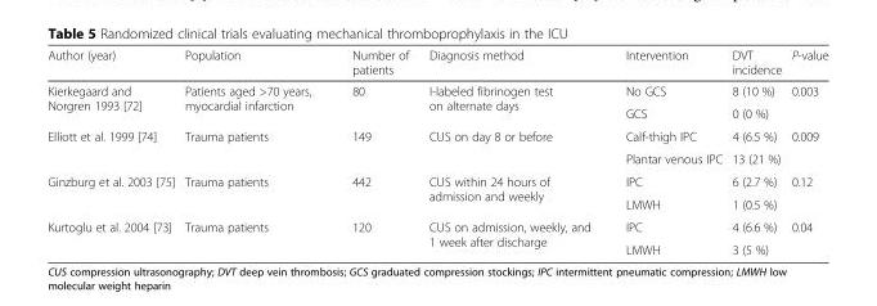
<table><thead><tr><td>Author (year)</td><td>Population</td><td>Number of patients</td><td>Diagnosis method</td><td>Intervention</td><td>DVT incidence</td><td>P-value</td></tr></thead><tbody><tr><td rowspan="2">Kierkegaard and Norgren 1993 [72]</td><td rowspan="2">Patients aged &gt;70 years, myocardial infarction</td><td rowspan="2">80</td><td rowspan="2">I-labeled fibrinogen test on alternate days</td><td>No GCS</td><td>8 (10 %)</td><td rowspan="2">0.003</td></tr><tr><td>GCS</td><td>0 (0 %)</td></tr><tr><td rowspan="2">Elliott et al. 1999 [74]</td><td rowspan="2">Trauma patients</td><td rowspan="2">149</td><td rowspan="2">CUS on day 8 or before</td><td>Calf-thigh IPC</td><td>4 (6.5 %)</td><td rowspan="2">0.009</td></tr><tr><td>Plantar venous IPC</td><td>13 (21 %)</td></tr><tr><td rowspan="2">Ginzburg et al. 2003 [75]</td><td rowspan="2">Trauma patients</td><td rowspan="2">442</td><td rowspan="2">CUS within 24 hours of admission and weekly</td><td>IPC</td><td>6 (2.7 %)</td><td rowspan="2">0.12</td></tr><tr><td>LMWH</td><td>1 (0.5 %)</td></tr><tr><td rowspan="2">Kurtoglu et al. 2004 [73]</td><td rowspan="2">Trauma patients</td><td rowspan="2">120</td><td rowspan="2">CUS on admission, weekly, and 1 week after discharge</td><td>IPC</td><td>4 (6.6 %)</td><td rowspan="2">0.04</td></tr><tr><td>LMWH</td><td>3 (5 %)</td></tr></tbody></table>